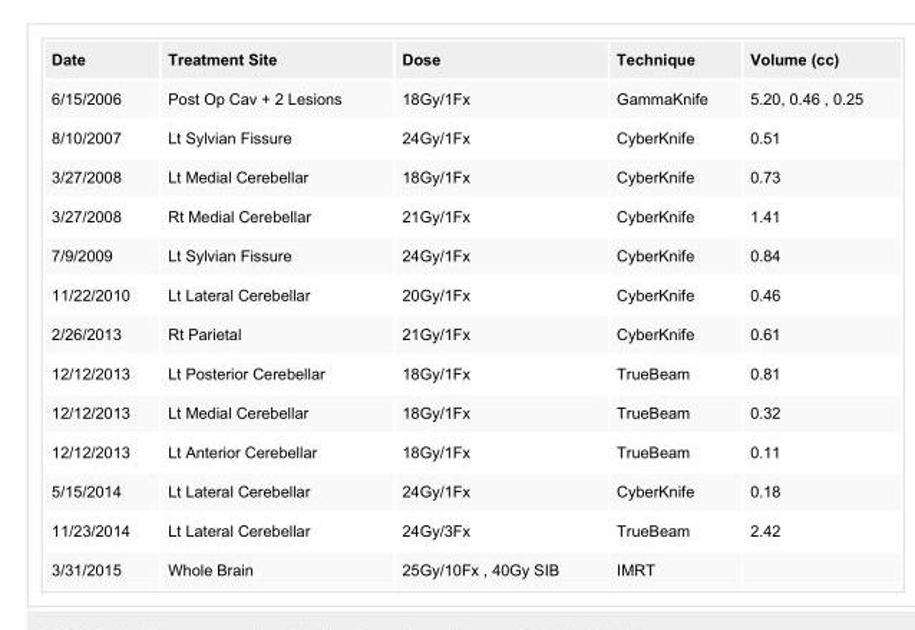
<table><tbody><tr><td>Date</td><td>Treatment Site</td><td>Dose</td><td>Technique</td><td>Volume (cc)</td></tr><tr><td>6/15/2006</td><td>Post Op Cav + 2 Lesions</td><td>18Gy/1Fx</td><td>GammaKnife</td><td>5.20, 0.46 , 0.25</td></tr><tr><td>8/10/2007</td><td>Lt Sylvian Fissure</td><td>24Gy/1Fx</td><td>CyberKnife</td><td>0.51</td></tr><tr><td>3/27/2008</td><td>Lt Medial Cerebellar</td><td>18Gy/1Fx</td><td>CyberKnife</td><td>0.73</td></tr><tr><td>3/27/2008</td><td>Rt Medial Cerebellar</td><td>21Gy/1Fx</td><td>CyberKnife</td><td>1.41</td></tr><tr><td>7/9/2009</td><td>Lt Sylvian Fissure</td><td>24Gy/1Fx</td><td>CyberKnife</td><td>0.84</td></tr><tr><td>11/22/2010</td><td>Lt Lateral Cerebellar</td><td>20Gy/1Fx</td><td>CyberKnife</td><td>0.46</td></tr><tr><td>2/26/2013</td><td>Rt Parietal</td><td>21Gy/1Fx</td><td>CyberKnife</td><td>0.61</td></tr><tr><td>12/12/2013</td><td>Lt Posterior Cerebellar</td><td>18Gy/1Fx</td><td>TrueBeam</td><td>0.81</td></tr><tr><td>12/12/2013</td><td>Lt Medial Cerebellar</td><td>18Gy/1Fx</td><td>TrueBeam</td><td>0.32</td></tr><tr><td>12/12/2013</td><td>Lt Anterior Cerebellar</td><td>18Gy/1Fx</td><td>TrueBeam</td><td>0.11</td></tr><tr><td>5/15/2014</td><td>Lt Lateral Cerebellar</td><td>24Gy/1Fx</td><td>CyberKnife</td><td>0.18</td></tr><tr><td>11/23/2014</td><td>Lt Lateral Cerebellar</td><td>24Gy/3Fx</td><td>TrueBeam</td><td>2.42</td></tr><tr><td>3/31/2015</td><td>Whole Brain</td><td>25Gy/10Fx , 40Gy SIB</td><td>IMRT</td><td></td></tr></tbody></table>